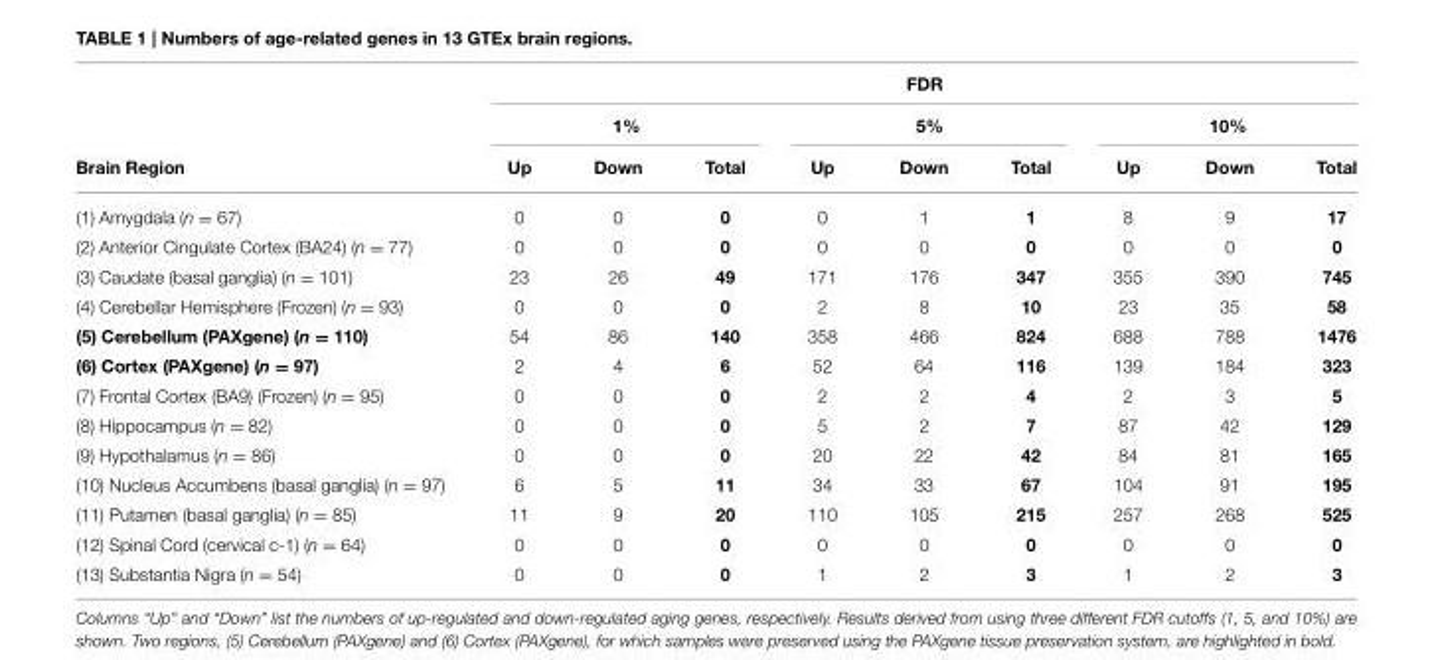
<table><thead><tr><td rowspan="3">Brain Region</td><td colspan="9">FDR</td></tr><tr><td colspan="3">1%</td><td colspan="3">5%</td><td colspan="3">10%</td></tr><tr><td>Up</td><td>Down</td><td>Total</td><td>Up</td><td>Down</td><td>Total</td><td>Up</td><td>Down</td><td>Total</td></tr></thead><tbody><tr><td>(1) Amygdala (n = 67)</td><td>0</td><td>0</td><td>0</td><td>0</td><td>1</td><td>1</td><td>8</td><td>9</td><td>17</td></tr><tr><td>(2) Anterior Cingulate Cortex (BA24) (n = 77)</td><td>0</td><td>0</td><td>0</td><td>0</td><td>0</td><td>0</td><td>0</td><td>0</td><td>0</td></tr><tr><td>(3) Caudate (basal ganglia) (n = 101)</td><td>23</td><td>26</td><td>49</td><td>171</td><td>176</td><td>347</td><td>355</td><td>390</td><td>745</td></tr><tr><td>(4) Cerebellar Hemisphere (Frozen) (n = 93)</td><td>0</td><td>0</td><td>0</td><td>2</td><td>8</td><td>10</td><td>23</td><td>35</td><td>58</td></tr><tr><td>(5) Cerebellum (PAXgene) (n = 110)</td><td>54</td><td>86</td><td>140</td><td>358</td><td>466</td><td>824</td><td>688</td><td>788</td><td>1476</td></tr><tr><td>(6) Cortex (PAXgene) (n = 97)</td><td>2</td><td>4</td><td>6</td><td>52</td><td>64</td><td>116</td><td>139</td><td>184</td><td>323</td></tr><tr><td>(7) Frontal Cortex (BA9) (Frozen) (n = 95)</td><td>0</td><td>0</td><td>0</td><td>2</td><td>2</td><td>4</td><td>2</td><td>3</td><td>5</td></tr><tr><td>(8) Hippocampus (n = 82)</td><td>0</td><td>0</td><td>0</td><td>5</td><td>2</td><td>7</td><td>87</td><td>42</td><td>129</td></tr><tr><td>(9) Hypothalamus (n = 86)</td><td>0</td><td>0</td><td>0</td><td>20</td><td>22</td><td>42</td><td>84</td><td>81</td><td>165</td></tr><tr><td>(10) Nucleus Accumbens (basal ganglia) (n = 97)</td><td>6</td><td>5</td><td>11</td><td>34</td><td>33</td><td>67</td><td>104</td><td>91</td><td>195</td></tr><tr><td>(11) Putamen (basal ganglia) (n = 85)</td><td>11</td><td>9</td><td>20</td><td>110</td><td>105</td><td>215</td><td>257</td><td>268</td><td>525</td></tr><tr><td>(12) Spinal Cord (cervical c-1) (n = 64)</td><td>0</td><td>0</td><td>0</td><td>0</td><td>0</td><td>0</td><td>0</td><td>0</td><td>0</td></tr><tr><td>(13) Substantia Nigra (n = 54)</td><td>0</td><td>0</td><td>0</td><td>1</td><td>2</td><td>3</td><td>1</td><td>2</td><td>3</td></tr></tbody></table>